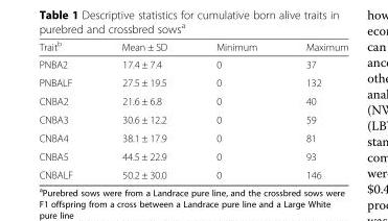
<table><thead><tr><td>Trait<sup>b</sup></td><td>Mean ± SD</td><td>Minimum</td><td>Maximum</td></tr></thead><tbody><tr><td>PNBA2</td><td>17.4 ± 7.4</td><td>0</td><td>37</td></tr><tr><td>PNBALF</td><td>27.5 ± 19.5</td><td>0</td><td>132</td></tr><tr><td>CNBA2</td><td>21.6 ± 6.8</td><td>0</td><td>40</td></tr><tr><td>CNBA3</td><td>30.6 ± 12.2</td><td>0</td><td>59</td></tr><tr><td>CNBA4</td><td>38.1 ± 17.9</td><td>0</td><td>81</td></tr><tr><td>CNBA5</td><td>44.5 ± 22.9</td><td>0</td><td>93</td></tr><tr><td>CNBALF</td><td>50.2 ± 30.0</td><td>0</td><td>146</td></tr></tbody></table>